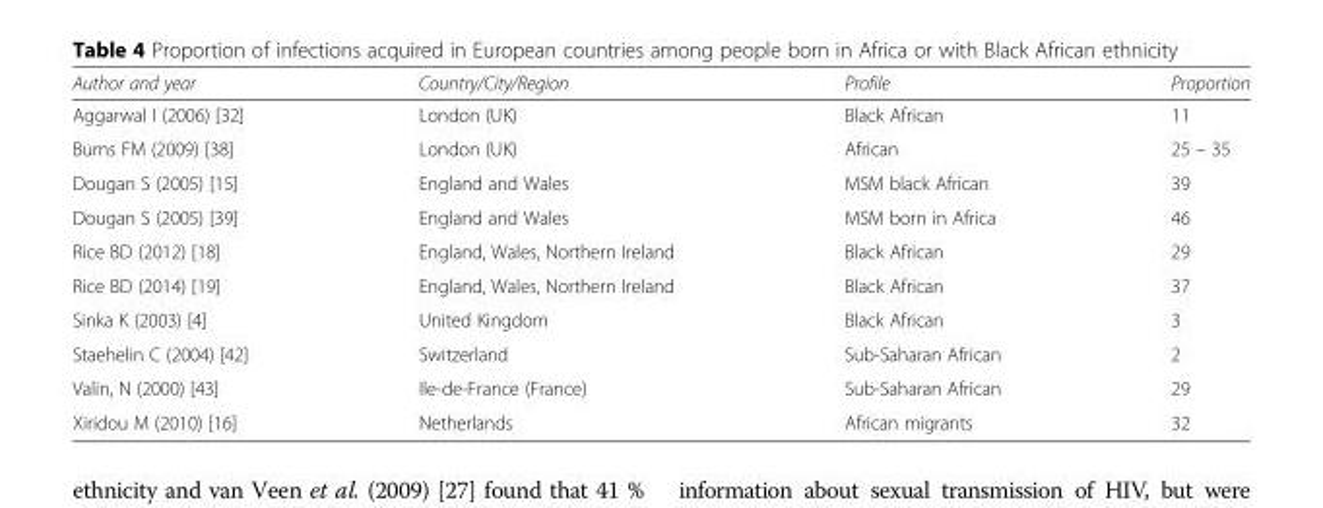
<table><thead><tr><td>Author and year</td><td>Country/City/Region</td><td>Profile</td><td>Proportion</td></tr></thead><tbody><tr><td>Aggarwal I (2006) [32]</td><td>London (UK)</td><td>Black African</td><td>11</td></tr><tr><td>Burns FM (2009) [38]</td><td>London (UK)</td><td>African</td><td>25 – 35</td></tr><tr><td>Dougan S (2005) [15]</td><td>England and Wales</td><td>MSM black African</td><td>39</td></tr><tr><td>Dougan S (2005) [39]</td><td>England and Wales</td><td>MSM born in Africa</td><td>46</td></tr><tr><td>Rice BD (2012) [18]</td><td>England, Wales, Northern Ireland</td><td>Black African</td><td>29</td></tr><tr><td>Rice BD (2014) [19]</td><td>England, Wales, Northern Ireland</td><td>Black African</td><td>37</td></tr><tr><td>Sinka K (2003) [4]</td><td>United Kingdom</td><td>Black African</td><td>3</td></tr><tr><td>Staehelin C (2004) [42]</td><td>Switzerland</td><td>Sub-Saharan African</td><td>2</td></tr><tr><td>Valin, N (2000) [43]</td><td>Ile-de-France (France)</td><td>Sub-Saharan African</td><td>29</td></tr><tr><td>Xiridou M (2010) [16]</td><td>Netherlands</td><td>African migrants</td><td>32</td></tr></tbody></table>